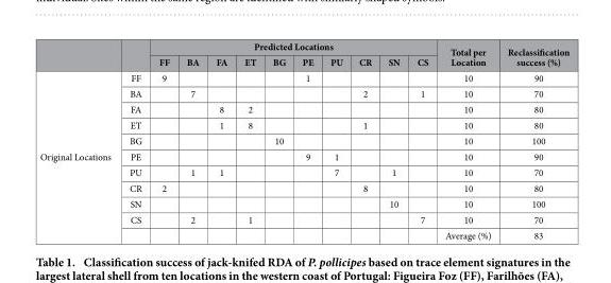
<table><thead><tr><td rowspan="2"></td><td rowspan="2"></td><td colspan="10">Predicted Locations</td><td rowspan="2">Total per Location</td><td rowspan="2">Reclassification success (%)</td></tr><tr><td>FF</td><td>BA</td><td>FA</td><td>ET</td><td>BG</td><td>PE</td><td>PU</td><td>CR</td><td>SN</td><td>CS</td></tr></thead><tbody><tr><td rowspan="11">Original Locations</td><td>FF</td><td>9</td><td></td><td></td><td></td><td></td><td>1</td><td></td><td></td><td></td><td></td><td>10</td><td>90</td></tr><tr><td>BA</td><td></td><td>7</td><td></td><td></td><td></td><td></td><td></td><td>2</td><td></td><td>1</td><td>10</td><td>70</td></tr><tr><td>FA</td><td></td><td></td><td>8</td><td>2</td><td></td><td></td><td></td><td></td><td></td><td></td><td>10</td><td>80</td></tr><tr><td>ET</td><td></td><td></td><td>1</td><td>8</td><td></td><td></td><td></td><td>1</td><td></td><td></td><td>10</td><td>80</td></tr><tr><td>BG</td><td></td><td></td><td></td><td></td><td>10</td><td></td><td></td><td></td><td></td><td></td><td>10</td><td>100</td></tr><tr><td>PE</td><td></td><td></td><td></td><td></td><td></td><td>9</td><td>1</td><td></td><td></td><td></td><td>10</td><td>90</td></tr><tr><td>PU</td><td></td><td>1</td><td>1</td><td></td><td></td><td></td><td>7</td><td></td><td>1</td><td></td><td>10</td><td>70</td></tr><tr><td>CR</td><td>2</td><td></td><td></td><td></td><td></td><td></td><td></td><td>8</td><td></td><td></td><td>10</td><td>80</td></tr><tr><td>SN</td><td></td><td></td><td></td><td></td><td></td><td></td><td></td><td></td><td>10</td><td></td><td>10</td><td>100</td></tr><tr><td>CS</td><td></td><td>2</td><td></td><td>1</td><td></td><td></td><td></td><td></td><td></td><td>7</td><td>10</td><td>70</td></tr><tr><td></td><td></td><td></td><td></td><td></td><td></td><td></td><td></td><td></td><td></td><td></td><td>Average (%)</td><td>83</td></tr></tbody></table>